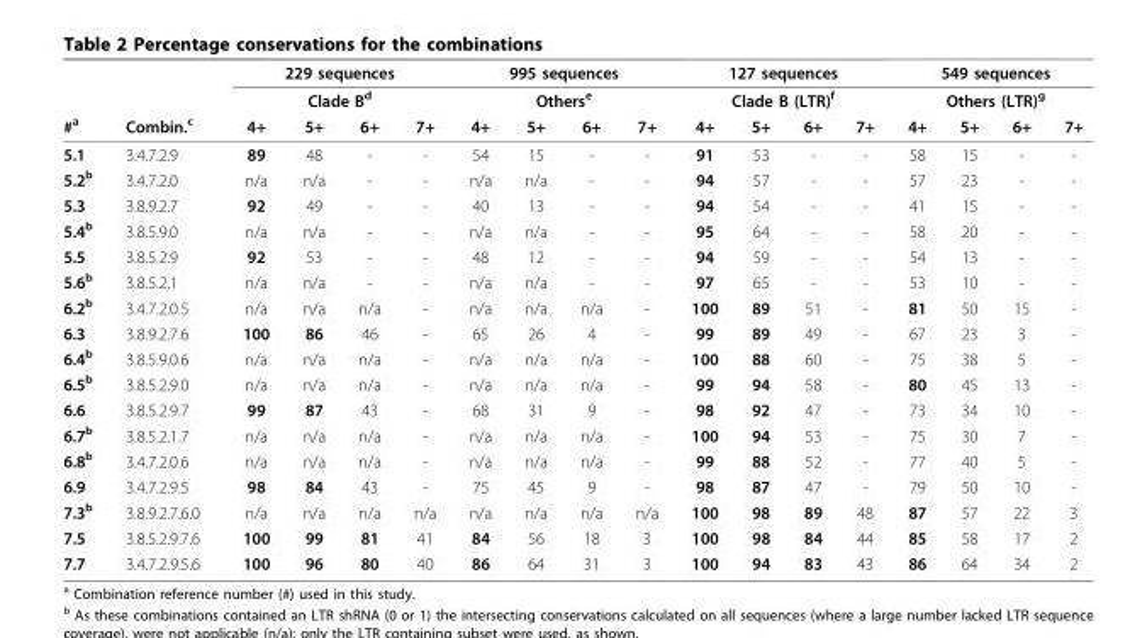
<table><thead><tr><td rowspan="3">#<sup>a</sup></td><td rowspan="3">Combin.<sup>c</sup></td><td rowspan="2" colspan="4">229 sequences Clade B<sup>d</sup></td><td rowspan="2" colspan="4">995 sequences Others<sup>e</sup></td><td rowspan="2" colspan="4">127 sequences Clade B (LTR)<sup>f</sup></td><td rowspan="2" colspan="4">549 sequences Others (LTR)<sup>g</sup></td></tr><tr></tr><tr><td>4+</td><td>5+</td><td>6+</td><td>7+</td><td>4+</td><td>5+</td><td>6+</td><td>7+</td><td>4+</td><td>5+</td><td>6+</td><td>7+</td><td>4+</td><td>5+</td><td>6+</td><td>7+</td></tr></thead><tbody><tr><td>5.1</td><td>3.4.7.2.9</td><td>89</td><td>48</td><td>-</td><td>-</td><td>54</td><td>15</td><td>-</td><td>-</td><td>91</td><td>53</td><td>-</td><td>-</td><td>58</td><td>15</td><td>-</td><td>-</td></tr><tr><td>5.2<sup>b</sup></td><td>3.4.7.2.0</td><td>n/a</td><td>n/a</td><td>-</td><td>-</td><td>n/a</td><td>n/a</td><td>-</td><td>-</td><td>94</td><td>57</td><td>-</td><td>-</td><td>57</td><td>23</td><td>-</td><td>-</td></tr><tr><td>5.3</td><td>3.8.9.2.7</td><td>92</td><td>49</td><td>-</td><td>-</td><td>40</td><td>13</td><td>-</td><td>-</td><td>94</td><td>54</td><td>-</td><td>-</td><td>41</td><td>15</td><td>-</td><td>-</td></tr><tr><td>5.4<sup>b</sup></td><td>3.8.5.9.0</td><td>n/a</td><td>n/a</td><td>-</td><td>-</td><td>n/a</td><td>n/a</td><td>-</td><td>-</td><td>95</td><td>64</td><td>-</td><td>-</td><td>58</td><td>20</td><td>-</td><td>-</td></tr><tr><td>5.5</td><td>3.8.5.2.9</td><td>92</td><td>53</td><td>-</td><td>-</td><td>48</td><td>12</td><td>-</td><td>-</td><td>94</td><td>59</td><td>-</td><td>-</td><td>54</td><td>13</td><td>-</td><td>-</td></tr><tr><td>5.6<sup>b</sup></td><td>3.8.5.2.1</td><td>n/a</td><td>n/a</td><td>-</td><td>-</td><td>n/a</td><td>n/a</td><td>-</td><td>-</td><td>97</td><td>65</td><td>-</td><td>-</td><td>53</td><td>10</td><td>-</td><td>-</td></tr><tr><td>6.2<sup>b</sup></td><td>3.4.7.2.0.5</td><td>n/a</td><td>n/a</td><td>n/a</td><td>-</td><td>n/a</td><td>n/a</td><td>n/a</td><td>-</td><td>100</td><td>89</td><td>51</td><td>-</td><td>81</td><td>50</td><td>15</td><td>-</td></tr><tr><td>6.3</td><td>3.8.9.2.7.6</td><td>100</td><td>86</td><td>46</td><td>-</td><td>65</td><td>26</td><td>4</td><td>-</td><td>99</td><td>89</td><td>49</td><td>-</td><td>67</td><td>23</td><td>3</td><td>-</td></tr><tr><td>6.4<sup>b</sup></td><td>3.8.5.9.0.6</td><td>n/a</td><td>n/a</td><td>n/a</td><td>-</td><td>n/a</td><td>n/a</td><td>n/a</td><td>-</td><td>100</td><td>88</td><td>60</td><td>-</td><td>75</td><td>38</td><td>5</td><td>-</td></tr><tr><td>6.5<sup>b</sup></td><td>3.8.5.2.9.0</td><td>n/a</td><td>n/a</td><td>n/a</td><td>-</td><td>n/a</td><td>n/a</td><td>n/a</td><td>-</td><td>99</td><td>94</td><td>58</td><td>-</td><td>80</td><td>45</td><td>13</td><td>-</td></tr><tr><td>6.6</td><td>3.8.5.2.9.7</td><td>99</td><td>87</td><td>43</td><td>-</td><td>68</td><td>31</td><td>9</td><td>-</td><td>98</td><td>92</td><td>47</td><td>-</td><td>73</td><td>34</td><td>10</td><td>-</td></tr><tr><td>6.7<sup>b</sup></td><td>3.8.5.2.1.7</td><td>n/a</td><td>n/a</td><td>n/a</td><td>-</td><td>n/a</td><td>n/a</td><td>n/a</td><td>-</td><td>100</td><td>94</td><td>53</td><td>-</td><td>75</td><td>30</td><td>7</td><td>-</td></tr><tr><td>6.8<sup>b</sup></td><td>3.4.7.2.0.6</td><td>n/a</td><td>n/a</td><td>n/a</td><td>-</td><td>n/a</td><td>n/a</td><td>n/a</td><td>-</td><td>99</td><td>88</td><td>52</td><td>-</td><td>77</td><td>40</td><td>5</td><td>-</td></tr><tr><td>6.9</td><td>3.4.7.2.9.5</td><td>98</td><td>84</td><td>43</td><td>-</td><td>75</td><td>45</td><td>9</td><td>-</td><td>98</td><td>87</td><td>47</td><td>-</td><td>79</td><td>50</td><td>10</td><td>-</td></tr><tr><td>7.3<sup>b</sup></td><td>3.8.9.2.7.6.0</td><td>n/a</td><td>n/a</td><td>n/a</td><td>n/a</td><td>n/a</td><td>n/a</td><td>n/a</td><td>n/a</td><td>100</td><td>98</td><td>89</td><td>48</td><td>87</td><td>57</td><td>22</td><td>3</td></tr><tr><td>7.5</td><td>3.8.5.2.9.7.6</td><td>100</td><td>99</td><td>81</td><td>41</td><td>84</td><td>56</td><td>18</td><td>3</td><td>100</td><td>98</td><td>84</td><td>44</td><td>85</td><td>58</td><td>17</td><td>2</td></tr><tr><td>7.7</td><td>3.4.7.2.9.5.6</td><td>100</td><td>96</td><td>80</td><td>40</td><td>86</td><td>64</td><td>31</td><td>3</td><td>100</td><td>94</td><td>83</td><td>43</td><td>86</td><td>64</td><td>34</td><td>2</td></tr></tbody></table>